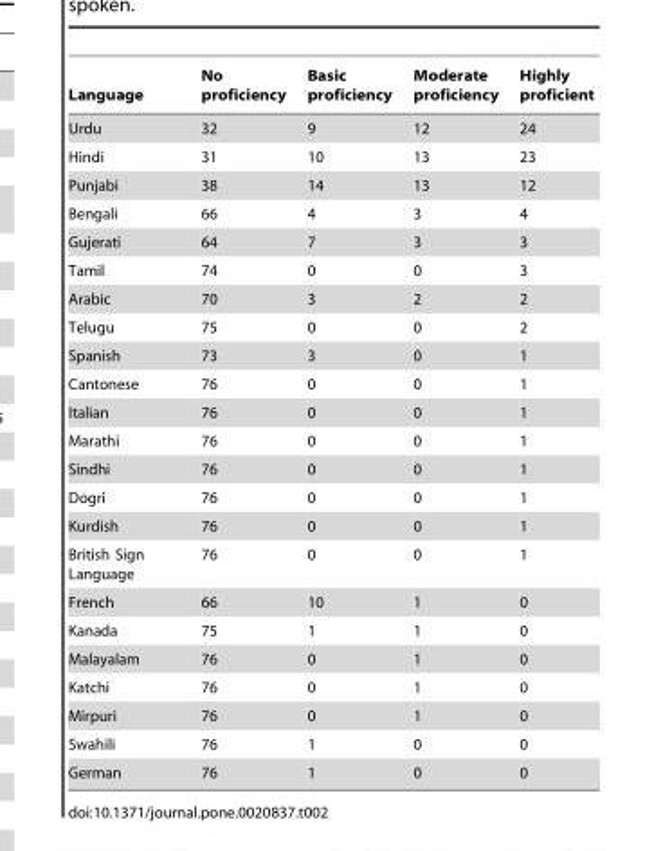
<table><thead><tr><td>Language</td><td>No proficiency</td><td>Basic proficiency</td><td>Moderate proficiency</td><td>Highly proficient</td></tr></thead><tbody><tr><td>Urdu</td><td>32</td><td>9</td><td>12</td><td>24</td></tr><tr><td>Hindi</td><td>31</td><td>10</td><td>13</td><td>23</td></tr><tr><td>Punjabi</td><td>38</td><td>14</td><td>13</td><td>12</td></tr><tr><td>Bengali</td><td>66</td><td>4</td><td>3</td><td>4</td></tr><tr><td>Gujerati</td><td>64</td><td>7</td><td>3</td><td>3</td></tr><tr><td>Tamil</td><td>74</td><td>0</td><td>0</td><td>3</td></tr><tr><td>Arabic</td><td>70</td><td>3</td><td>2</td><td>2</td></tr><tr><td>Telugu</td><td>75</td><td>0</td><td>0</td><td>2</td></tr><tr><td>Spanish</td><td>73</td><td>3</td><td>0</td><td>1</td></tr><tr><td>Cantonese</td><td>76</td><td>0</td><td>0</td><td>1</td></tr><tr><td>Italian</td><td>76</td><td>0</td><td>0</td><td>1</td></tr><tr><td>Marathi</td><td>76</td><td>0</td><td>0</td><td>1</td></tr><tr><td>Sindhi</td><td>76</td><td>0</td><td>0</td><td>1</td></tr><tr><td>Dogri</td><td>76</td><td>0</td><td>0</td><td>1</td></tr><tr><td>Kurdish</td><td>76</td><td>0</td><td>0</td><td>1</td></tr><tr><td>British Sign Language</td><td>76</td><td>0</td><td>0</td><td>1</td></tr><tr><td>French</td><td>66</td><td>10</td><td>1</td><td>0</td></tr><tr><td>Kanada</td><td>75</td><td>1</td><td>1</td><td>0</td></tr><tr><td>Malayalam</td><td>76</td><td>0</td><td>1</td><td>0</td></tr><tr><td>Katchi</td><td>76</td><td>0</td><td>1</td><td>0</td></tr><tr><td>Mirpuri</td><td>76</td><td>0</td><td>1</td><td>0</td></tr><tr><td>Swahili</td><td>76</td><td>1</td><td>0</td><td>0</td></tr><tr><td>German</td><td>76</td><td>1</td><td>0</td><td>0</td></tr></tbody></table>